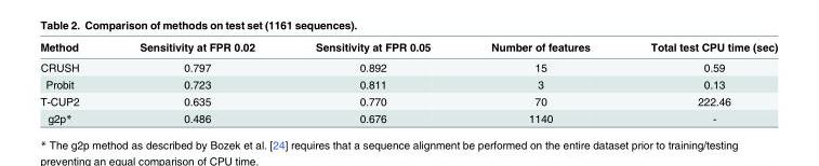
<table><thead><tr><td>Method</td><td>Sensitivity at FPR 0.02</td><td>Sensitivity at FPR 0.05</td><td>Number of features</td><td>Total test CPU time (sec)</td></tr></thead><tbody><tr><td>CRUSH</td><td>0.797</td><td>0.892</td><td>15</td><td>0.59</td></tr><tr><td>Probit</td><td>0.723</td><td>0.811</td><td>3</td><td>0.13</td></tr><tr><td>T-CUP2</td><td>0.635</td><td>0.770</td><td>70</td><td>222.46</td></tr><tr><td>g2p*</td><td>0.486</td><td>0.676</td><td>1140</td><td>-</td></tr></tbody></table>